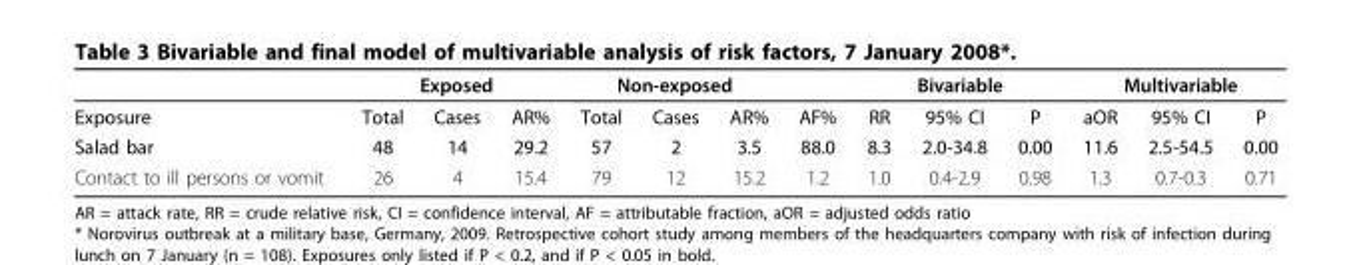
<table><thead><tr><td rowspan="2">Exposure</td><td colspan="3">Exposed</td><td colspan="3">Non-exposed</td><td rowspan="2">AF%</td><td colspan="3">Bivariable</td><td colspan="3">Multivariable</td></tr><tr><td>Total</td><td>Cases</td><td>AR%</td><td>Total</td><td>Cases</td><td>AR%</td><td>RR</td><td>95% CI</td><td>P</td><td>aOR</td><td>95% CI</td><td>P</td></tr></thead><tbody><tr><td>Salad bar</td><td>48</td><td>14</td><td>29.2</td><td>57</td><td>2</td><td>3.5</td><td>88.0</td><td>8.3</td><td>2.0-34.8</td><td>0.00</td><td>11.6</td><td>2.5-54.5</td><td>0.00</td></tr><tr><td>Contact to ill persons or vomit</td><td>26</td><td>4</td><td>15.4</td><td>79</td><td>12</td><td>15.2</td><td>1.2</td><td>1.0</td><td>0.4-2.9</td><td>0.98</td><td>1.3</td><td>0.7-0.3</td><td>0.71</td></tr></tbody></table>